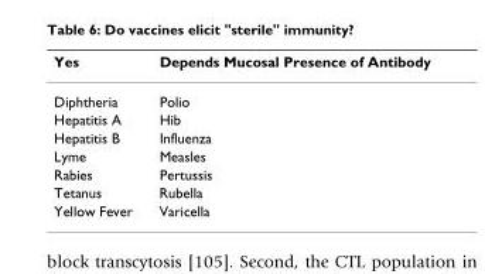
<table><thead><tr><td>Yes</td><td>Depends Mucosal Presence of Antibody</td></tr></thead><tbody><tr><td>Diphtheria</td><td>Polio</td></tr><tr><td>Hepatitis A</td><td>Hib</td></tr><tr><td>Hepatitis B</td><td>Influenza</td></tr><tr><td>Lyme</td><td>Measles</td></tr><tr><td>Rabies</td><td>Pertussis</td></tr><tr><td>Tetanus</td><td>Rubella</td></tr><tr><td>Yellow Fever</td><td>Varicella</td></tr></tbody></table>